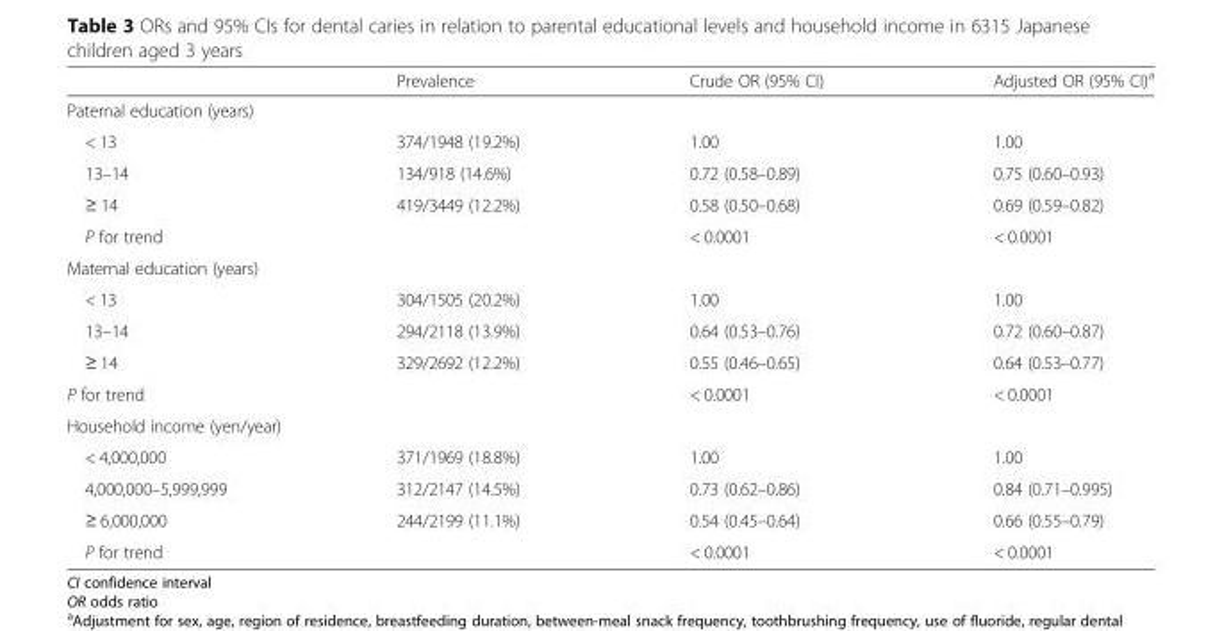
<table><thead><tr><td></td><td>Prevalence</td><td>Crude OR (95% CI)</td><td>Adjusted OR (95% CI)<sup>a</sup></td></tr></thead><tbody><tr><td colspan="4">Paternal education (years)</td></tr><tr><td>&lt; 13</td><td>374/1948 (19.2%)</td><td>1.00</td><td>1.00</td></tr><tr><td>13–14</td><td>134/918 (14.6%)</td><td>0.72 (0.58–0.89)</td><td>0.75 (0.60–0.93)</td></tr><tr><td>≥ 14</td><td>419/3449 (12.2%)</td><td>0.58 (0.50–0.68)</td><td>0.69 (0.59–0.82)</td></tr><tr><td>P for trend</td><td></td><td>&lt; 0.0001</td><td>&lt; 0.0001</td></tr><tr><td colspan="4">Maternal education (years)</td></tr><tr><td>&lt; 13</td><td>304/1505 (20.2%)</td><td>1.00</td><td>1.00</td></tr><tr><td>13–14</td><td>294/2118 (13.9%)</td><td>0.64 (0.53–0.76)</td><td>0.72 (0.60–0.87)</td></tr><tr><td>≥ 14</td><td>329/2692 (12.2%)</td><td>0.55 (0.46–0.65)</td><td>0.64 (0.53–0.77)</td></tr><tr><td>P for trend</td><td></td><td>&lt; 0.0001</td><td>&lt; 0.0001</td></tr><tr><td colspan="4">Household income (yen/year)</td></tr><tr><td>&lt; 4,000,000</td><td>371/1969 (18.8%)</td><td>1.00</td><td>1.00</td></tr><tr><td>4,000,000–5,999,999</td><td>312/2147 (14.5%)</td><td>0.73 (0.62–0.86)</td><td>0.84 (0.71–0.995)</td></tr><tr><td>≥ 6,000,000</td><td>244/2199 (11.1%)</td><td>0.54 (0.45–0.64)</td><td>0.66 (0.55–0.79)</td></tr><tr><td>P for trend</td><td></td><td>&lt; 0.0001</td><td>&lt; 0.0001</td></tr></tbody></table>